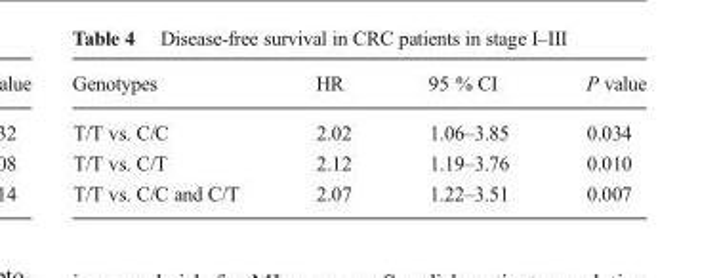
<table><thead><tr><td>Genotypes</td><td>HR</td><td>95 % CI</td><td>P value</td></tr></thead><tbody><tr><td>T/T vs. C/C</td><td>2.02</td><td>1.06–3.85</td><td>0.034</td></tr><tr><td>T/T vs. C/T</td><td>2.12</td><td>1.19–3.76</td><td>0.010</td></tr><tr><td>T/T vs. C/C and C/T</td><td>2.07</td><td>1.22–3.51</td><td>0.007</td></tr></tbody></table>